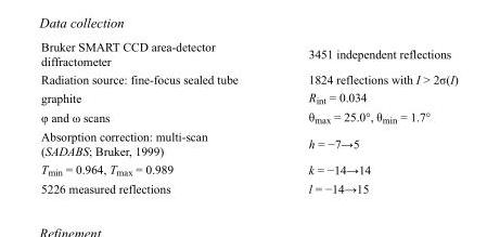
<table><tbody><tr><td>Bruker SMART CCD area-detector diffractometer</td><td>3451 independent reflections</td></tr><tr><td>Radiation source: fine-focus sealed tube</td><td>1824 reflections with I &gt; 2σ(I)</td></tr><tr><td>graphite</td><td>R<sub>int</sub> = 0.034</td></tr><tr><td>φ and ω scans</td><td>θ<sub>max</sub> = 25.0°, θ<sub>min</sub> = 1.7°</td></tr><tr><td>Absorption correction: multi-scan (SADABS; Bruker, 1999)</td><td>h = −7→5</td></tr><tr><td>T<sub>min</sub> = 0.964, T<sub>max</sub> = 0.989</td><td>k = −14→14</td></tr><tr><td>5226 measured reflections</td><td>l = −14→15</td></tr></tbody></table>